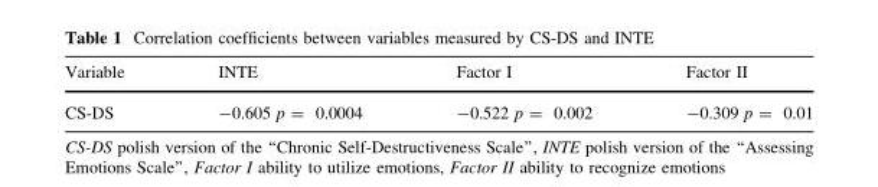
<table><thead><tr><td>Variable</td><td>INTE</td><td>Factor I</td><td>Factor II</td></tr></thead><tbody><tr><td>CS-DS</td><td>-0.605 p = 0.0004</td><td>-0.522 p = 0.002</td><td>-0.309 p = 0.01</td></tr></tbody></table>